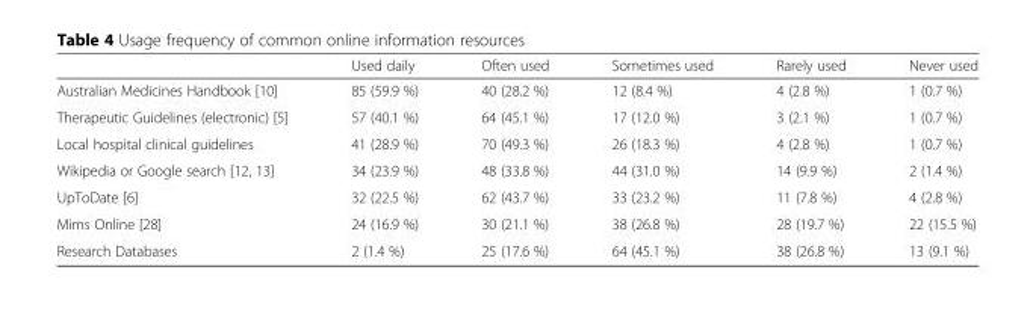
<table><thead><tr><td></td><td>Used daily</td><td>Often used</td><td>Sometimes used</td><td>Rarely used</td><td>Never used</td></tr></thead><tbody><tr><td>Australian Medicines Handbook [10]</td><td>85 (59.9 %)</td><td>40 (28.2 %)</td><td>12 (8.4 %)</td><td>4 (2.8 %)</td><td>1 (0.7 %)</td></tr><tr><td>Therapeutic Guidelines (electronic) [5]</td><td>57 (40.1 %)</td><td>64 (45.1 %)</td><td>17 (12.0 %)</td><td>3 (2.1 %)</td><td>1 (0.7 %)</td></tr><tr><td>Local hospital clinical guidelines</td><td>41 (28.9 %)</td><td>70 (49.3 %)</td><td>26 (18.3 %)</td><td>4 (2.8 %)</td><td>1 (0.7 %)</td></tr><tr><td>Wikipedia or Google search [12, 13]</td><td>34 (23.9 %)</td><td>48 (33.8 %)</td><td>44 (31.0 %)</td><td>14 (9.9 %)</td><td>2 (1.4 %)</td></tr><tr><td>UpToDate [6]</td><td>32 (22.5 %)</td><td>62 (43.7 %)</td><td>33 (23.2 %)</td><td>11 (7.8 %)</td><td>4 (2.8 %)</td></tr><tr><td>Mims Online [28]</td><td>24 (16.9 %)</td><td>30 (21.1 %)</td><td>38 (26.8 %)</td><td>28 (19.7 %)</td><td>22 (15.5 %)</td></tr><tr><td>Research Databases</td><td>2 (1.4 %)</td><td>25 (17.6 %)</td><td>64 (45.1 %)</td><td>38 (26.8 %)</td><td>13 (9.1 %)</td></tr></tbody></table>